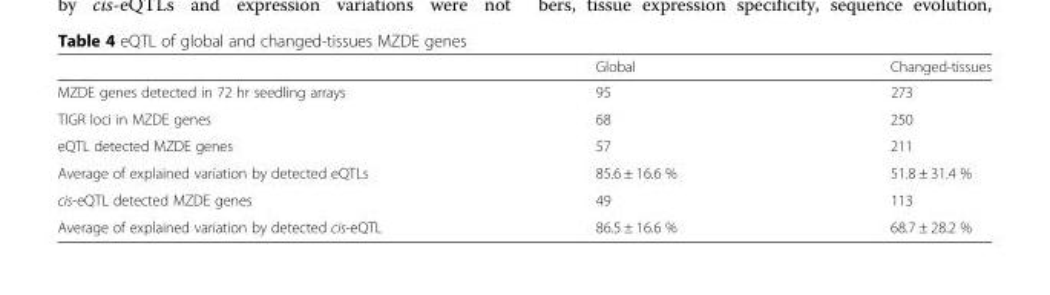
<table><thead><tr><td></td><td>Global</td><td>Changed-tissues</td></tr></thead><tbody><tr><td>MZDE genes detected in 72 hr seedling arrays</td><td>95</td><td>273</td></tr><tr><td>TIGR loci in MZDE genes</td><td>68</td><td>250</td></tr><tr><td>eQTL detected MZDE genes</td><td>57</td><td>211</td></tr><tr><td>Average of explained variation by detected eQTLs</td><td>85.6 ± 16.6 %</td><td>51.8 ± 31.4 %</td></tr><tr><td>cis-eQTL detected MZDE genes</td><td>49</td><td>113</td></tr><tr><td>Average of explained variation by detected cis-eQTL</td><td>86.5 ± 16.6 %</td><td>68.7 ± 28.2 %</td></tr></tbody></table>